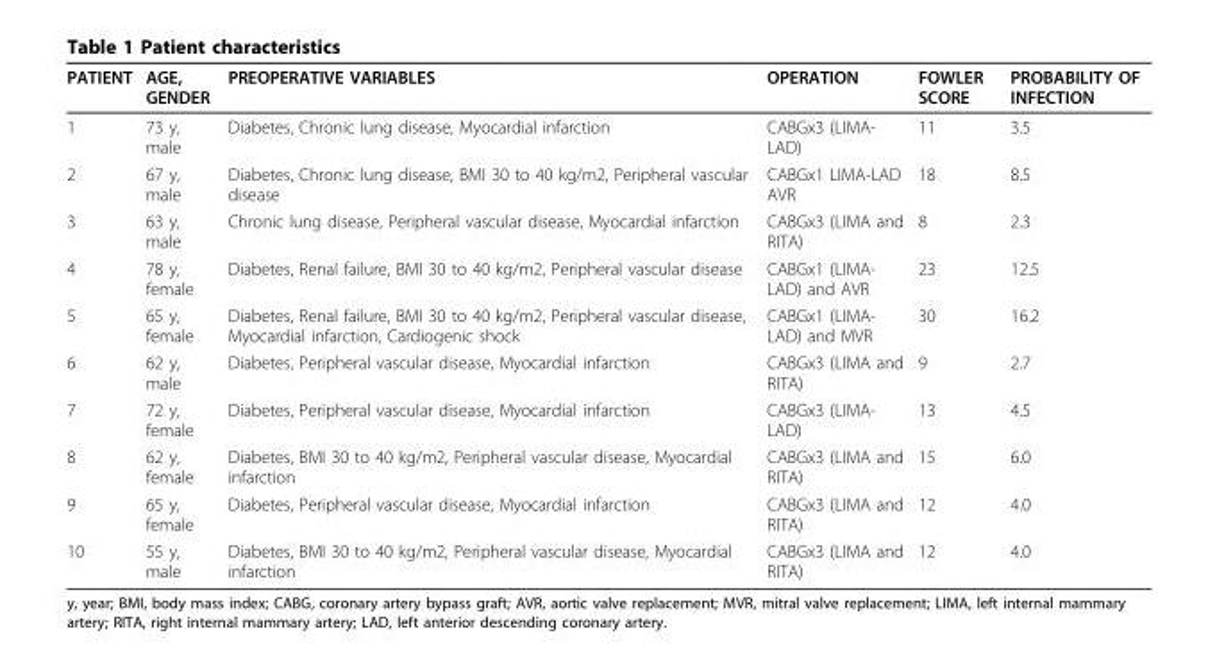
<table><thead><tr><td>PATIENT</td><td>AGE, GENDER</td><td>PREOPERATIVE VARIABLES</td><td>OPERATION</td><td>FOWLER SCORE</td><td>PROBABILITY OF INFECTION</td></tr></thead><tbody><tr><td>1</td><td>73 y, male</td><td>Diabetes, Chronic lung disease, Myocardial infarction</td><td>CABGx3 (LIMA- LAD)</td><td>11</td><td>3.5</td></tr><tr><td>2</td><td>67 y, male</td><td>Diabetes, Chronic lung disease, BMI 30 to 40 kg/m2, Peripheral vascular disease</td><td>CABGx1 LIMA-LAD AVR</td><td>18</td><td>8.5</td></tr><tr><td>3</td><td>63 y, male</td><td>Chronic lung disease, Peripheral vascular disease, Myocardial infarction</td><td>CABGx3 (LIMA and RITA)</td><td>8</td><td>2.3</td></tr><tr><td>4</td><td>78 y, female</td><td>Diabetes, Renal failure, BMI 30 to 40 kg/m2, Peripheral vascular disease</td><td>CABGx1 (LIMA- LAD) and AVR</td><td>23</td><td>12.5</td></tr><tr><td>5</td><td>65 y, female</td><td>Diabetes, Renal failure, BMI 30 to 40 kg/m2, Peripheral vascular disease, Myocardial infarction, Cardiogenic shock</td><td>CABGx1 (LIMA- LAD) and MVR</td><td>30</td><td>16.2</td></tr><tr><td>6</td><td>62 y, male</td><td>Diabetes, Peripheral vascular disease, Myocardial infarction</td><td>CABGx3 (LIMA and RITA)</td><td>9</td><td>2.7</td></tr><tr><td>7</td><td>72 y, female</td><td>Diabetes, Peripheral vascular disease, Myocardial infarction</td><td>CABGx3 (LIMA- LAD)</td><td>13</td><td>4.5</td></tr><tr><td>8</td><td>62 y, female</td><td>Diabetes, BMI 30 to 40 kg/m2, Peripheral vascular disease, Myocardial infarction</td><td>CABGx3 (LIMA and RITA)</td><td>15</td><td>6.0</td></tr><tr><td>9</td><td>65 y, female</td><td>Diabetes, Peripheral vascular disease, Myocardial infarction</td><td>CABGx3 (LIMA and RITA)</td><td>12</td><td>4.0</td></tr><tr><td>10</td><td>55 y, male</td><td>Diabetes, BMI 30 to 40 kg/m2, Peripheral vascular disease, Myocardial infarction</td><td>CABGx3 (LIMA and RITA)</td><td>12</td><td>4.0</td></tr></tbody></table>